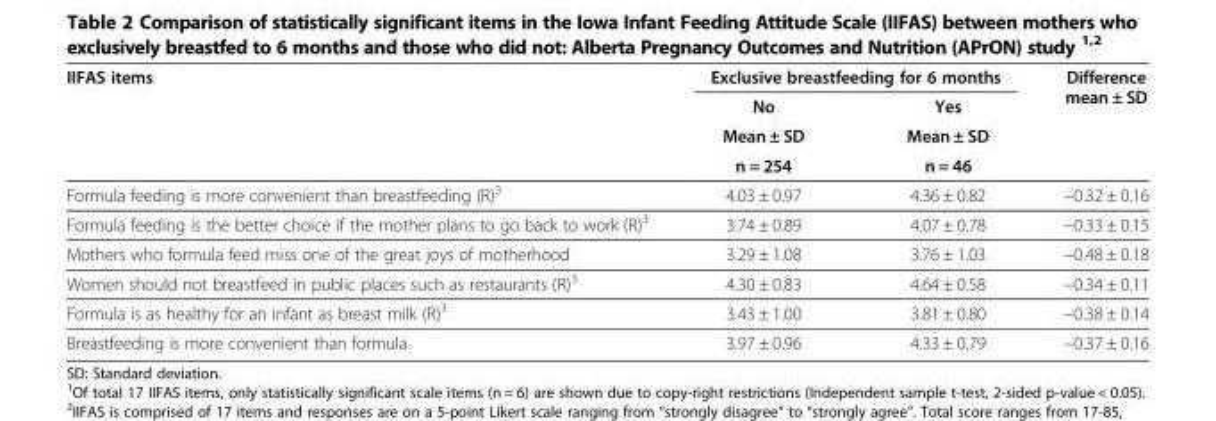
<table><thead><tr><td rowspan="4">IIFAS items</td><td colspan="2">Exclusive breastfeeding for 6 months</td><td rowspan="4">Difference mean ± SD</td></tr><tr><td rowspan="3">No Mean ± SD n = 254</td><td rowspan="3">Yes Mean ± SD n = 46</td></tr><tr></tr><tr></tr></thead><tbody><tr><td>Formula feeding is more convenient than breastfeeding (R)<sup>3</sup></td><td>4.03 ± 0.97</td><td>4.36 ± 0.82</td><td>−0.32 ± 0.16</td></tr><tr><td>Formula feeding is the better choice if the mother plans to go back to work (R)<sup>3</sup></td><td>3.74 ± 0.89</td><td>4.07 ± 0.78</td><td>−0.33 ± 0.15</td></tr><tr><td>Mothers who formula feed miss one of the great joys of motherhood</td><td>3.29 ± 1.08</td><td>3.76 ± 1.03</td><td>−0.48 ± 0.18</td></tr><tr><td>Women should not breastfeed in public places such as restaurants (R)<sup>3</sup></td><td>4.30 ± 0.83</td><td>4.64 ± 0.58</td><td>−0.34 ± 0.11</td></tr><tr><td>Formula is as healthy for an infant as breast milk (R)<sup>3</sup></td><td>3.43 ± 1.00</td><td>3.81 ± 0.80</td><td>−0.38 ± 0.14</td></tr><tr><td>Breastfeeding is more convenient than formula</td><td>3.97 ± 0.96</td><td>4.33 ± 0.79</td><td>−0.37 ± 0.16</td></tr></tbody></table>